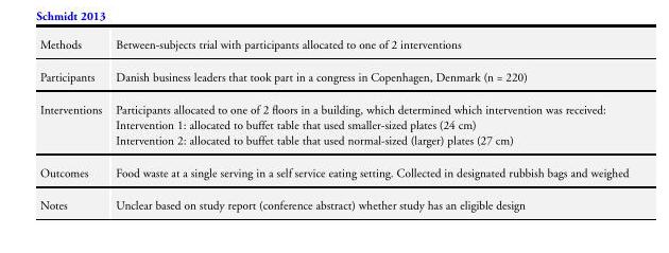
<table><tbody><tr><td>Methods</td><td>Between-subjects trial with participants allocated to one of 2 interventions</td></tr><tr><td>Participants</td><td>Danish business leaders that took part in a congress in Copenhagen, Denmark (n = 220)</td></tr><tr><td>Interventions</td><td>Participants allocated to one of 2 floors in a building, which determined which intervention was received: Intervention 1: allocated to buffet table that used smaller-sized plates (24 cm) Intervention 2: allocated to buffet table that used normal-sized (larger) plates (27 cm)</td></tr><tr><td>Outcomes</td><td>Food waste at a single serving in a self service eating setting. Collected in designated rubbish bags and weighed</td></tr><tr><td>Notes</td><td>Unclear based on study report (conference abstract) whether study has an eligible design</td></tr></tbody></table>